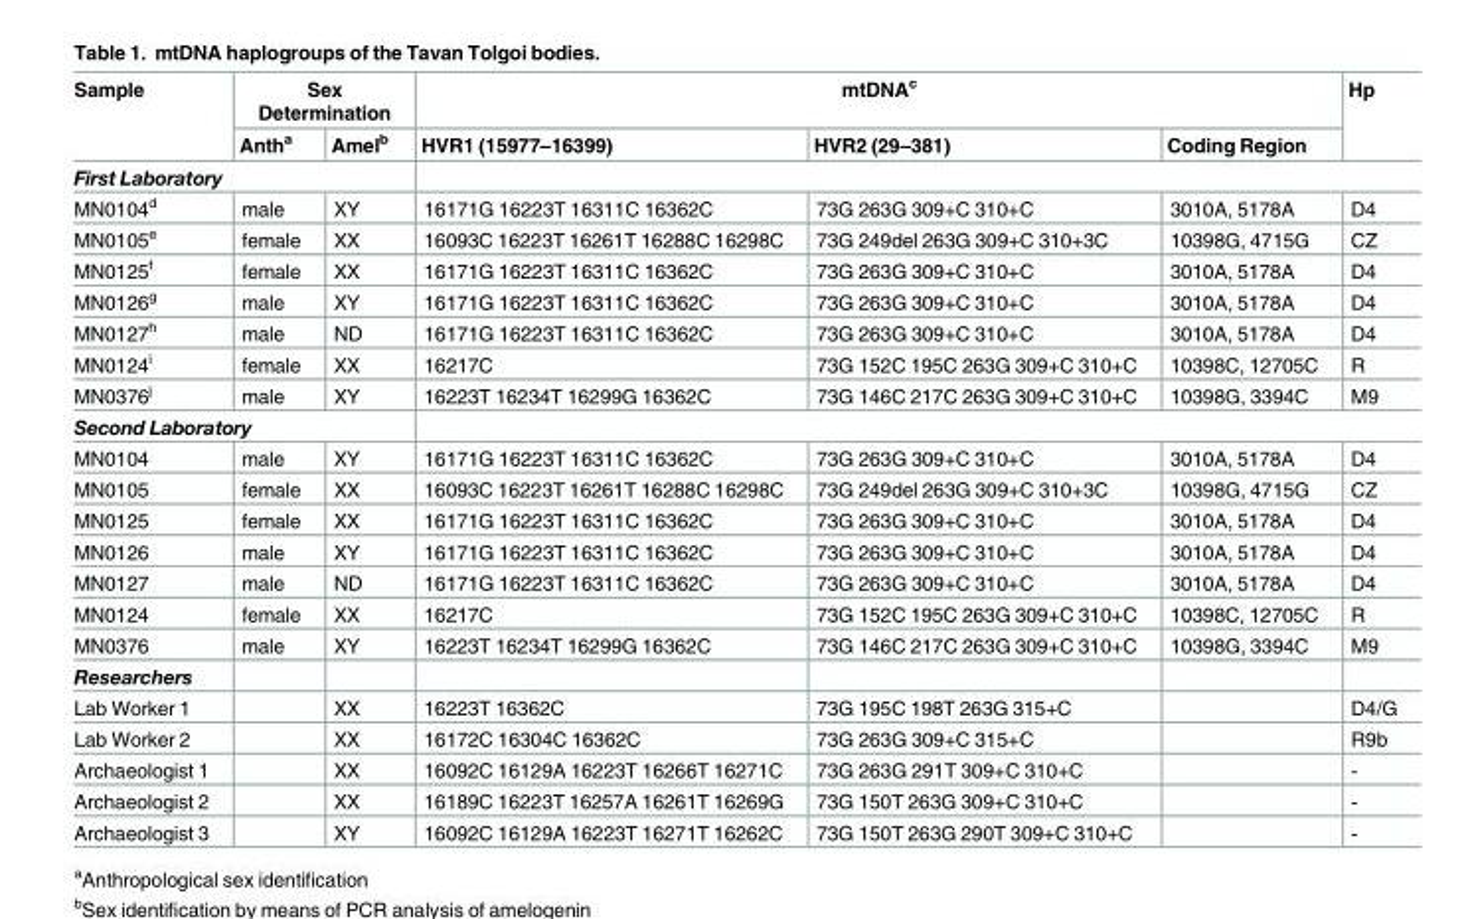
<table><thead><tr><td rowspan="2">Sample</td><td colspan="2">Sex Determination</td><td colspan="3">mtDNA<sup>c</sup></td><td rowspan="2">Hp</td></tr><tr><td>Anth<sup>a</sup></td><td>Amel<sup>b</sup></td><td>HVR1 (15977–16399)</td><td>HVR2 (29–381)</td><td>Coding Region</td></tr></thead><tbody><tr><td colspan="7">First Laboratory</td></tr><tr><td>MN0104<sup>d</sup></td><td>male</td><td>XY</td><td>16171G 16223T 16311C 16362C</td><td>73G 263G 309+C 310+C</td><td>3010A, 5178A</td><td>D4</td></tr><tr><td>MN0105<sup>e</sup></td><td>female</td><td>XX</td><td>16093C 16223T 16261T 16288C 16298C</td><td>73G 249del 263G 309+C 310+3C</td><td>10398G, 4715G</td><td>CZ</td></tr><tr><td>MN0125<sup>f</sup></td><td>female</td><td>XX</td><td>16171G 16223T 16311C 16362C</td><td>73G 263G 309+C 310+C</td><td>3010A, 5178A</td><td>D4</td></tr><tr><td>MN0126<sup>g</sup></td><td>male</td><td>XY</td><td>16171G 16223T 16311C 16362C</td><td>73G 263G 309+C 310+C</td><td>3010A, 5178A</td><td>D4</td></tr><tr><td>MN0127<sup>h</sup></td><td>male</td><td>ND</td><td>16171G 16223T 16311C 16362C</td><td>73G 263G 309+C 310+C</td><td>3010A, 5178A</td><td>D4</td></tr><tr><td>MN0124<sup>i</sup></td><td>female</td><td>XX</td><td>16217C</td><td>73G 152C 195C 263G 309+C 310+C</td><td>10398C, 12705C</td><td>R</td></tr><tr><td>MN0376<sup>j</sup></td><td>male</td><td>XY</td><td>16223T 16234T 16299G 16362C</td><td>73G 146C 217C 263G 309+C 310+C</td><td>10398G, 3394C</td><td>M9</td></tr><tr><td colspan="7">Second Laboratory</td></tr><tr><td>MN0104</td><td>male</td><td>XY</td><td>16171G 16223T 16311C 16362C</td><td>73G 263G 309+C 310+C</td><td>3010A, 5178A</td><td>D4</td></tr><tr><td>MN0105</td><td>female</td><td>XX</td><td>16093C 16223T 16261T 16288C 16298C</td><td>73G 249del 263G 309+C 310+3C</td><td>10398G, 4715G</td><td>CZ</td></tr><tr><td>MN0125</td><td>female</td><td>XX</td><td>16171G 16223T 16311C 16362C</td><td>73G 263G 309+C 310+C</td><td>3010A, 5178A</td><td>D4</td></tr><tr><td>MN0126</td><td>male</td><td>XY</td><td>16171G 16223T 16311C 16362C</td><td>73G 263G 309+C 310+C</td><td>3010A, 5178A</td><td>D4</td></tr><tr><td>MN0127</td><td>male</td><td>ND</td><td>16171G 16223T 16311C 16362C</td><td>73G 263G 309+C 310+C</td><td>3010A, 5178A</td><td>D4</td></tr><tr><td>MN0124</td><td>female</td><td>XX</td><td>16217C</td><td>73G 152C 195C 263G 309+C 310+C</td><td>10398C, 12705C</td><td>R</td></tr><tr><td>MN0376</td><td>male</td><td>XY</td><td>16223T 16234T 16299G 16362C</td><td>73G 146C 217C 263G 309+C 310+C</td><td>10398G, 3394C</td><td>M9</td></tr><tr><td colspan="7">Researchers</td></tr><tr><td>Lab Worker 1</td><td></td><td>XX</td><td>16223T 16362C</td><td>73G 195C 198T 263G 315+C</td><td></td><td>D4/G</td></tr><tr><td>Lab Worker 2</td><td></td><td>XX</td><td>16172C 16304C 16362C</td><td>73G 263G 309+C 315+C</td><td></td><td>R9b</td></tr><tr><td>Archaeologist 1</td><td></td><td>XX</td><td>16092C 16129A 16223T 16266T 16271C</td><td>73G 263G 291T 309+C 310+C</td><td></td><td>-</td></tr><tr><td>Archaeologist 2</td><td></td><td>XX</td><td>16189C 16223T 16257A 16261T 16269G</td><td>73G 150T 263G 309+C 310+C</td><td></td><td>-</td></tr><tr><td>Archaeologist 3</td><td></td><td>XY</td><td>16092C 16129A 16223T 16271T 16262C</td><td>73G 150T 263G 290T 309+C 310+C</td><td></td><td>-</td></tr></tbody></table>